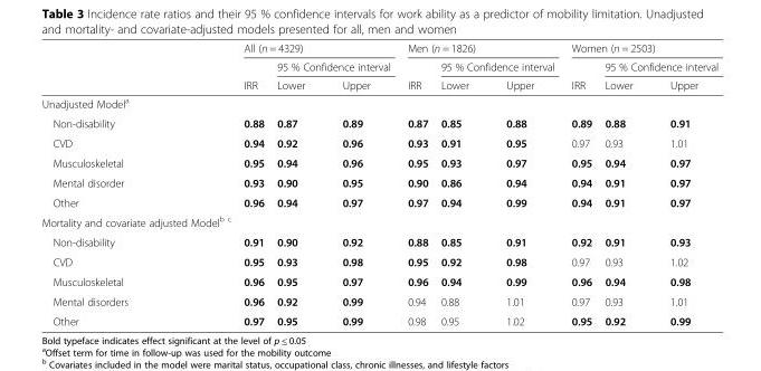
<table><thead><tr><td rowspan="3"></td><td colspan="3">All (n = 4329)</td><td colspan="3">Men (n = 1826)</td><td colspan="3">Women (n = 2503)</td></tr><tr><td rowspan="2">IRR</td><td colspan="2">95 % Confidence interval</td><td rowspan="2">IRR</td><td colspan="2">95 % Confidence interval</td><td rowspan="2">IRR</td><td colspan="2">95 % Confidence interval</td></tr><tr><td>Lower</td><td>Upper</td><td>Lower</td><td>Upper</td><td>Lower</td><td>Upper</td></tr></thead><tbody><tr><td colspan="10">Unadjusted Model<sup>a</sup></td></tr><tr><td>Non-disability</td><td>0.88</td><td>0.87</td><td>0.89</td><td>0.87</td><td>0.85</td><td>0.88</td><td>0.89</td><td>0.88</td><td>0.91</td></tr><tr><td>CVD</td><td>0.94</td><td>0.92</td><td>0.96</td><td>0.93</td><td>0.91</td><td>0.95</td><td>0.97</td><td>0.93</td><td>1.01</td></tr><tr><td>Musculoskeletal</td><td>0.95</td><td>0.94</td><td>0.96</td><td>0.95</td><td>0.93</td><td>0.97</td><td>0.95</td><td>0.94</td><td>0.97</td></tr><tr><td>Mental disorder</td><td>0.93</td><td>0.90</td><td>0.95</td><td>0.90</td><td>0.86</td><td>0.94</td><td>0.94</td><td>0.91</td><td>0.97</td></tr><tr><td>Other</td><td>0.96</td><td>0.94</td><td>0.97</td><td>0.97</td><td>0.94</td><td>0.99</td><td>0.94</td><td>0.91</td><td>0.97</td></tr><tr><td colspan="10">Mortality and covariate adjusted Model<sup>b c</sup></td></tr><tr><td>Non-disability</td><td>0.91</td><td>0.90</td><td>0.92</td><td>0.88</td><td>0.85</td><td>0.91</td><td>0.92</td><td>0.91</td><td>0.93</td></tr><tr><td>CVD</td><td>0.95</td><td>0.93</td><td>0.98</td><td>0.95</td><td>0.92</td><td>0.98</td><td>0.97</td><td>0.93</td><td>1.02</td></tr><tr><td>Musculoskeletal</td><td>0.96</td><td>0.95</td><td>0.97</td><td>0.96</td><td>0.94</td><td>0.99</td><td>0.96</td><td>0.94</td><td>0.98</td></tr><tr><td>Mental disorders</td><td>0.96</td><td>0.92</td><td>0.99</td><td>0.94</td><td>0.88</td><td>1.01</td><td>0.97</td><td>0.93</td><td>1.01</td></tr><tr><td>Other</td><td>0.97</td><td>0.95</td><td>0.99</td><td>0.98</td><td>0.95</td><td>1.02</td><td>0.95</td><td>0.92</td><td>0.99</td></tr></tbody></table>